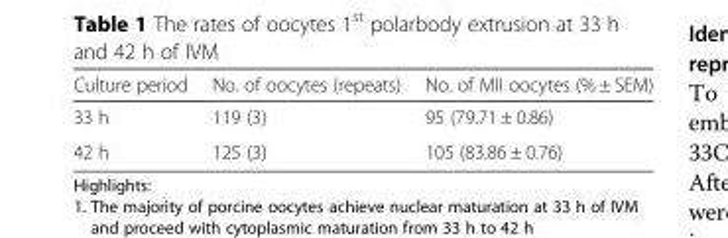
<table><thead><tr><td>Culture period</td><td>No. of oocytes (repeats)</td><td>No. of MII oocytes (% ± SEM)</td></tr></thead><tbody><tr><td>33 h</td><td>119 (3)</td><td>95 (79.71 ± 0.86)</td></tr><tr><td>42 h</td><td>125 (3)</td><td>105 (83.86 ± 0.76)</td></tr></tbody></table>